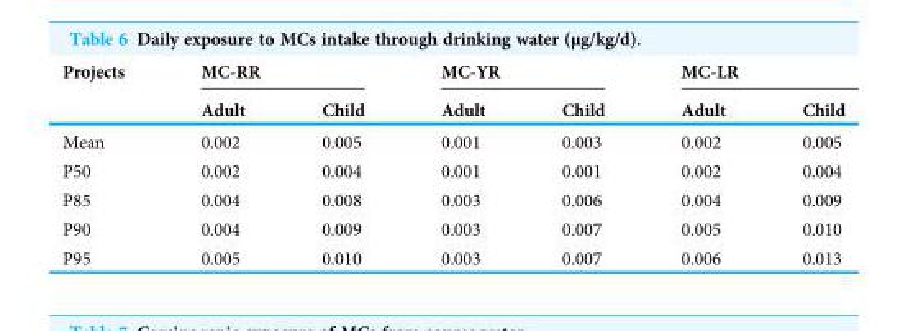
<table><thead><tr><td rowspan="2">Projects</td><td colspan="2">MC-RR</td><td colspan="2">MC-YR</td><td colspan="2">MC-LR</td></tr><tr><td>Adult</td><td>Child</td><td>Adult</td><td>Child</td><td>Adult</td><td>Child</td></tr></thead><tbody><tr><td>Mean</td><td>0.002</td><td>0.005</td><td>0.001</td><td>0.003</td><td>0.002</td><td>0.005</td></tr><tr><td>P50</td><td>0.002</td><td>0.004</td><td>0.001</td><td>0.001</td><td>0.002</td><td>0.004</td></tr><tr><td>P85</td><td>0.004</td><td>0.008</td><td>0.003</td><td>0.006</td><td>0.004</td><td>0.009</td></tr><tr><td>P90</td><td>0.004</td><td>0.009</td><td>0.003</td><td>0.007</td><td>0.005</td><td>0.010</td></tr><tr><td>P95</td><td>0.005</td><td>0.010</td><td>0.003</td><td>0.007</td><td>0.006</td><td>0.013</td></tr></tbody></table>